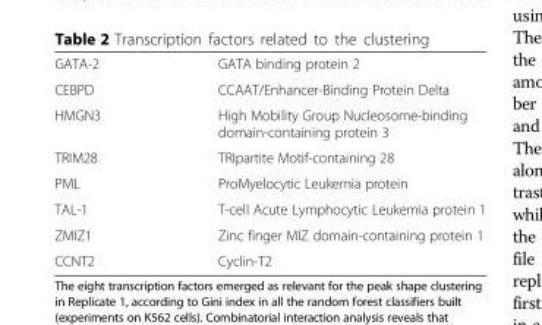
<table><tbody><tr><td>GATA-2</td><td>GATA binding protein 2</td></tr><tr><td>CEBPD</td><td>CCAAT/Enhancer-Binding Protein Delta</td></tr><tr><td>HMGN3</td><td>High Mobility Group Nucleosome-binding domain-containing protein 3</td></tr><tr><td>TRIM28</td><td>TRIpartite Motif-containing 28</td></tr><tr><td>PML</td><td>ProMyelocytic Leukemia protein</td></tr><tr><td>TAL-1</td><td>T-cell Acute Lymphocytic Leukemia protein 1</td></tr><tr><td>ZMIZ1</td><td>Zinc finger MIZ domain-containing protein 1</td></tr><tr><td>CCNT2</td><td>Cyclin-T2</td></tr></tbody></table>